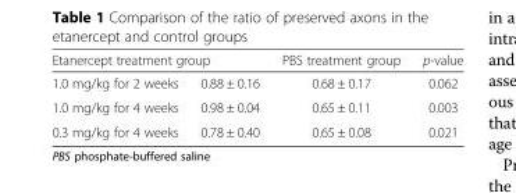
<table><thead><tr><td colspan="2">Etanercept treatment group</td><td rowspan="2">PBS treatment group 0.68 ± 0.17</td><td rowspan="2">p-value 0.062</td></tr><tr><td>1.0 mg/kg for 2 weeks</td><td>0.88 ± 0.16</td></tr></thead><tbody><tr><td>1.0 mg/kg for 4 weeks</td><td>0.98 ± 0.04</td><td>0.65 ± 0.11</td><td>0.003</td></tr><tr><td>0.3 mg/kg for 4 weeks</td><td>0.78 ± 0.40</td><td>0.65 ± 0.08</td><td>0.021</td></tr></tbody></table>